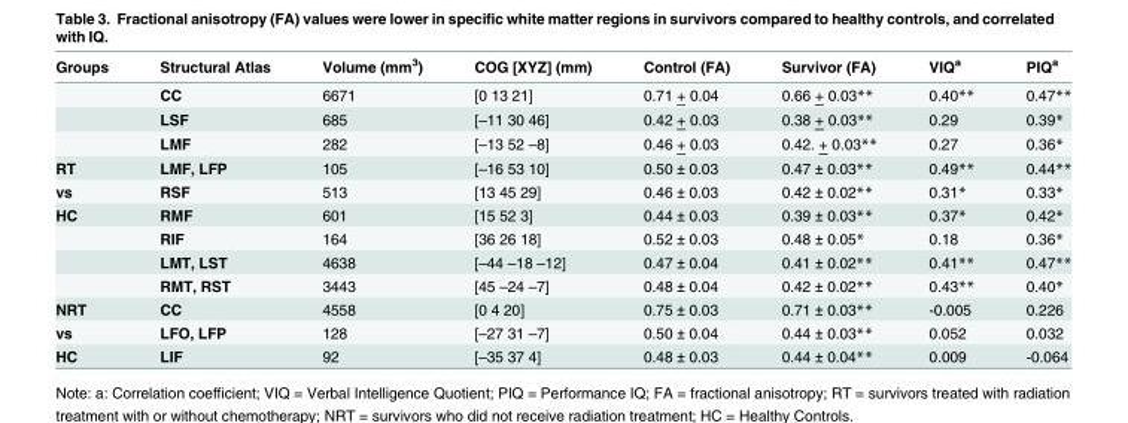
<table><thead><tr><td>Groups</td><td>Structural Atlas</td><td>Volume (mm<sup>3</sup>)</td><td>COG [XYZ] (mm)</td><td>Control (FA)</td><td>Survivor (FA)</td><td>VIQ<sup>a</sup></td><td>PIQ<sup>a</sup></td></tr></thead><tbody><tr><td></td><td>CC</td><td>6671</td><td>[0 13 21]</td><td>0.71 + 0.04</td><td>0.66 + 0.03**</td><td>0.40**</td><td>0.47**</td></tr><tr><td></td><td>LSF</td><td>685</td><td>[–11 30 46]</td><td>0.42 + 0.03</td><td>0.38 + 0.03**</td><td>0.29</td><td>0.39*</td></tr><tr><td></td><td>LMF</td><td>282</td><td>[–13 52 –8]</td><td>0.46 + 0.03</td><td>0.42. + 0.03**</td><td>0.27</td><td>0.36*</td></tr><tr><td>RT</td><td>LMF, LFP</td><td>105</td><td>[–16 53 10]</td><td>0.50 ± 0.03</td><td>0.47 ± 0.03**</td><td>0.49**</td><td>0.44**</td></tr><tr><td>vs</td><td>RSF</td><td>513</td><td>[13 45 29]</td><td>0.46 ± 0.03</td><td>0.42 ± 0.02**</td><td>0.31*</td><td>0.33*</td></tr><tr><td rowspan="4">HC</td><td>RMF</td><td>601</td><td>[15 52 3]</td><td>0.44 ± 0.03</td><td>0.39 ± 0.03**</td><td>0.37*</td><td>0.42*</td></tr><tr><td>RIF</td><td>164</td><td>[36 26 18]</td><td>0.52 ± 0.03</td><td>0.48 ± 0.05*</td><td>0.18</td><td>0.36*</td></tr><tr><td>LMT, LST</td><td>4638</td><td>[–44 –18 –12]</td><td>0.47 ± 0.04</td><td>0.41 ± 0.02**</td><td>0.41**</td><td>0.47**</td></tr><tr><td>RMT, RST</td><td>3443</td><td>[45 –24 –7]</td><td>0.48 ± 0.04</td><td>0.42 ± 0.02**</td><td>0.43**</td><td>0.40*</td></tr><tr><td>NRT</td><td>CC</td><td>4558</td><td>[0 4 20]</td><td>0.75 ± 0.03</td><td>0.71 ± 0.03**</td><td>-0.005</td><td>0.226</td></tr><tr><td>vs</td><td>LFO, LFP</td><td>128</td><td>[–27 31 –7]</td><td>0.50 ± 0.04</td><td>0.44 ± 0.03**</td><td>0.052</td><td>0.032</td></tr><tr><td>HC</td><td>LIF</td><td>92</td><td>[–35 37 4]</td><td>0.48 ± 0.03</td><td>0.44 ± 0.04**</td><td>0.009</td><td>-0.064</td></tr></tbody></table>